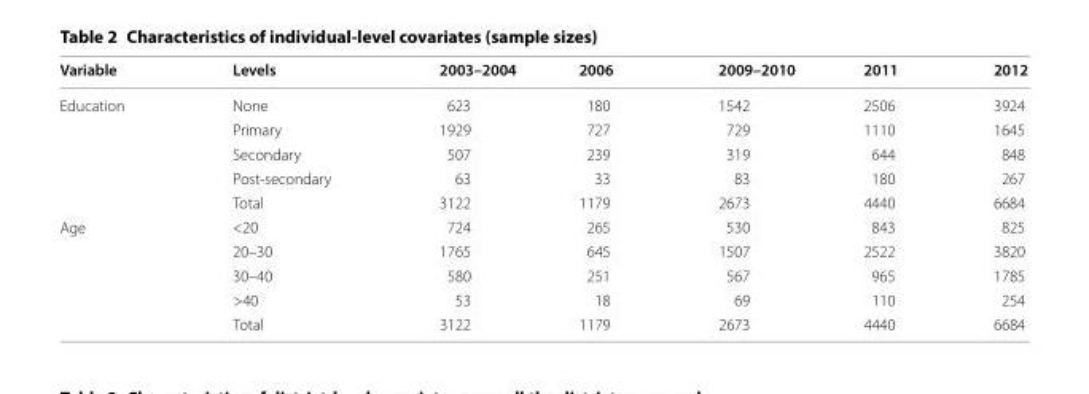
<table><thead><tr><td>Variable</td><td>Levels</td><td>2003–2004</td><td>2006</td><td>2009–2010</td><td>2011</td><td>2012</td></tr></thead><tbody><tr><td rowspan="5">Education</td><td>None</td><td>623</td><td>180</td><td>1542</td><td>2506</td><td>3924</td></tr><tr><td>Primary</td><td>1929</td><td>727</td><td>729</td><td>1110</td><td>1645</td></tr><tr><td>Secondary</td><td>507</td><td>239</td><td>319</td><td>644</td><td>848</td></tr><tr><td>Post-secondary</td><td>63</td><td>33</td><td>83</td><td>180</td><td>267</td></tr><tr><td>Total</td><td>3122</td><td>1179</td><td>2673</td><td>4440</td><td>6684</td></tr><tr><td rowspan="5">Age</td><td>&lt;20</td><td>724</td><td>265</td><td>530</td><td>843</td><td>825</td></tr><tr><td>20–30</td><td>1765</td><td>645</td><td>1507</td><td>2522</td><td>3820</td></tr><tr><td>30–40</td><td>580</td><td>251</td><td>567</td><td>965</td><td>1785</td></tr><tr><td>&gt;40</td><td>53</td><td>18</td><td>69</td><td>110</td><td>254</td></tr><tr><td>Total</td><td>3122</td><td>1179</td><td>2673</td><td>4440</td><td>6684</td></tr></tbody></table>